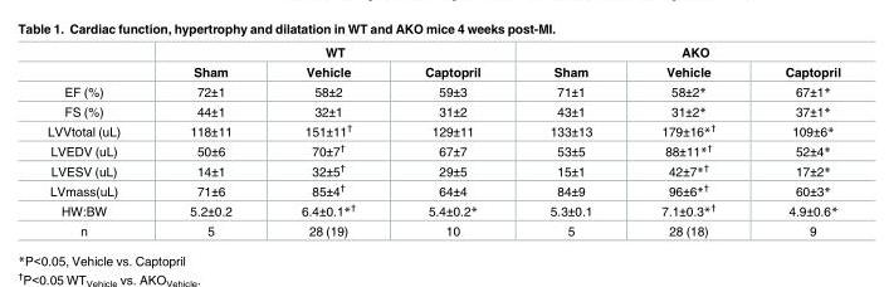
<table><thead><tr><td rowspan="2"></td><td colspan="3">WT</td><td colspan="3">AKO</td></tr><tr><td>Sham</td><td>Vehicle</td><td>Captopril</td><td>Sham</td><td>Vehicle</td><td>Captopril</td></tr></thead><tbody><tr><td>EF (%)</td><td>72±1</td><td>58±2</td><td>59±3</td><td>71±1</td><td>58±2*</td><td>67±1*</td></tr><tr><td>FS (%)</td><td>44±1</td><td>32±1</td><td>31±2</td><td>43±1</td><td>31±2*</td><td>37±1*</td></tr><tr><td>LVVtotal (uL)</td><td>118±11</td><td>151±11<sup>†</sup></td><td>129±11</td><td>133±13</td><td>179±16*<sup>†</sup></td><td>109±6*</td></tr><tr><td>LVEDV (uL)</td><td>50±6</td><td>70±7<sup>†</sup></td><td>67±7</td><td>53±5</td><td>88±11*<sup>†</sup></td><td>52±4*</td></tr><tr><td>LVESV (uL)</td><td>14±1</td><td>32±5<sup>†</sup></td><td>29±5</td><td>15±1</td><td>42±7*<sup>†</sup></td><td>17±2*</td></tr><tr><td>LVmass(uL)</td><td>71±6</td><td>85±4<sup>†</sup></td><td>64±4</td><td>84±9</td><td>96±6*<sup>†</sup></td><td>60±3*</td></tr><tr><td>HW:BW</td><td>5.2±0.2</td><td>6.4±0.1*<sup>†</sup></td><td>5.4±0.2*</td><td>5.3±0.1</td><td>7.1±0.3*<sup>†</sup></td><td>4.9±0.6*</td></tr><tr><td>n</td><td>5</td><td>28 (19)</td><td>10</td><td>5</td><td>28 (18)</td><td>9</td></tr></tbody></table>